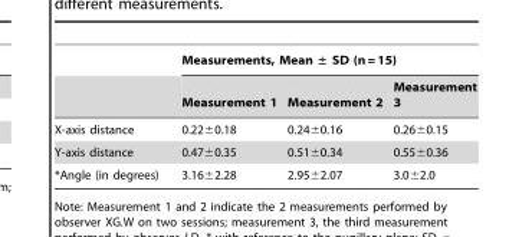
<table><thead><tr><td rowspan="2"></td><td colspan="3">Measurements, Mean ± SD (n = 15)</td></tr><tr><td>Measurement 1</td><td>Measurement 2</td><td>Measurement 3</td></tr></thead><tbody><tr><td>X-axis distance</td><td>0.22±0.18</td><td>0.24±0.16</td><td>0.26±0.15</td></tr><tr><td>Y-axis distance</td><td>0.47±0.35</td><td>0.51±0.34</td><td>0.55±0.36</td></tr><tr><td>*Angle (in degrees)</td><td>3.16±2.28</td><td>2.95±2.07</td><td>3.0±2.0</td></tr></tbody></table>